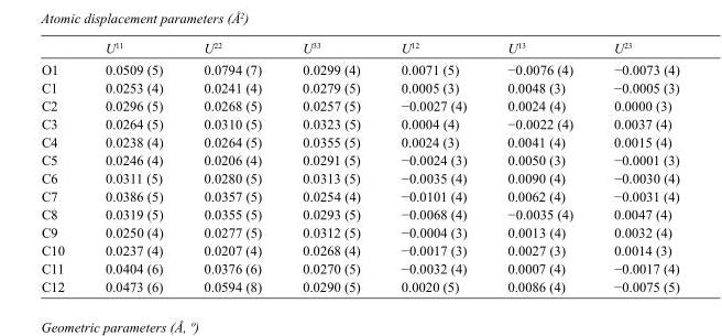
<table><thead><tr><td></td><td>U<sup>11</sup></td><td>U<sup>22</sup></td><td>U<sup>33</sup></td><td>U<sup>12</sup></td><td>U<sup>13</sup></td><td>U<sup>23</sup></td></tr></thead><tbody><tr><td>O1</td><td>0.0509 (5)</td><td>0.0794 (7)</td><td>0.0299 (4)</td><td>0.0071 (5)</td><td>−0.0076 (4)</td><td>−0.0073 (4)</td></tr><tr><td>C1</td><td>0.0253 (4)</td><td>0.0241 (4)</td><td>0.0279 (5)</td><td>0.0005 (3)</td><td>0.0048 (3)</td><td>−0.0005 (3)</td></tr><tr><td>C2</td><td>0.0296 (5)</td><td>0.0268 (5)</td><td>0.0257 (5)</td><td>−0.0027 (4)</td><td>0.0024 (4)</td><td>0.0000 (3)</td></tr><tr><td>C3</td><td>0.0264 (5)</td><td>0.0310 (5)</td><td>0.0323 (5)</td><td>0.0004 (4)</td><td>−0.0022 (4)</td><td>0.0037 (4)</td></tr><tr><td>C4</td><td>0.0238 (4)</td><td>0.0264 (5)</td><td>0.0355 (5)</td><td>0.0024 (3)</td><td>0.0041 (4)</td><td>0.0015 (4)</td></tr><tr><td>C5</td><td>0.0246 (4)</td><td>0.0206 (4)</td><td>0.0291 (5)</td><td>−0.0024 (3)</td><td>0.0050 (3)</td><td>−0.0001 (3)</td></tr><tr><td>C6</td><td>0.0311 (5)</td><td>0.0280 (5)</td><td>0.0313 (5)</td><td>−0.0035 (4)</td><td>0.0090 (4)</td><td>−0.0030 (4)</td></tr><tr><td>C7</td><td>0.0386 (5)</td><td>0.0357 (5)</td><td>0.0254 (4)</td><td>−0.0101 (4)</td><td>0.0062 (4)</td><td>−0.0031 (4)</td></tr><tr><td>C8</td><td>0.0319 (5)</td><td>0.0355 (5)</td><td>0.0293 (5)</td><td>−0.0068 (4)</td><td>−0.0035 (4)</td><td>0.0047 (4)</td></tr><tr><td>C9</td><td>0.0250 (4)</td><td>0.0277 (5)</td><td>0.0312 (5)</td><td>−0.0004 (3)</td><td>0.0013 (4)</td><td>0.0032 (4)</td></tr><tr><td>C10</td><td>0.0237 (4)</td><td>0.0207 (4)</td><td>0.0268 (4)</td><td>−0.0017 (3)</td><td>0.0027 (3)</td><td>0.0014 (3)</td></tr><tr><td>C11</td><td>0.0404 (6)</td><td>0.0376 (6)</td><td>0.0270 (5)</td><td>−0.0032 (4)</td><td>0.0007 (4)</td><td>−0.0017 (4)</td></tr><tr><td>C12</td><td>0.0473 (6)</td><td>0.0594 (8)</td><td>0.0290 (5)</td><td>0.0020 (5)</td><td>0.0086 (4)</td><td>−0.0075 (5)</td></tr></tbody></table>